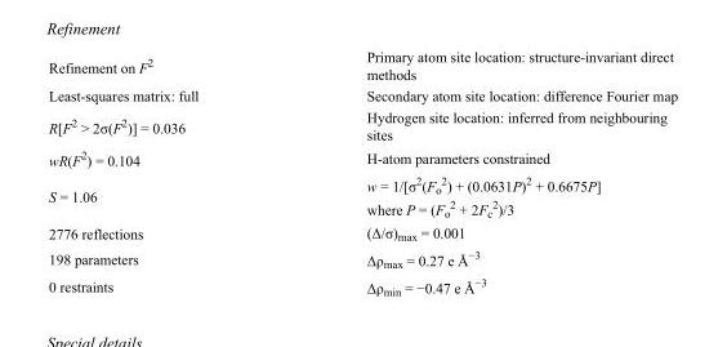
<table><tbody><tr><td>Refinement on F<sup>2</sup></td><td>Primary atom site location: structure-invariant direct methods</td></tr><tr><td>Least-squares matrix: full</td><td>Secondary atom site location: difference Fourier map</td></tr><tr><td>R[F<sup>2</sup> &gt; 2σ(F<sup>2</sup>)] = 0.036</td><td>Hydrogen site location: inferred from neighbouring sites</td></tr><tr><td>wR(F<sup>2</sup>) = 0.104</td><td>H-atom parameters constrained</td></tr><tr><td>S = 1.06</td><td>w = 1/[σ<sup>2</sup>(F<sub>o</sub> <sup>2</sup>) + (0.0631P)<sup>2</sup> + 0.6675P] where P = (F<sub>o</sub> <sup>2</sup> + 2F<sub>c</sub> <sup>2</sup>)/3</td></tr><tr><td>2776 reflections</td><td>(Δ/σ)<sub>max</sub> = 0.001</td></tr><tr><td>198 parameters</td><td>Δρ<sub>max</sub> = 0.27 e Å<sup>−3</sup></td></tr><tr><td>0 restraints</td><td>Δρ<sub>min</sub> = −0.47 e Å<sup>−3</sup></td></tr></tbody></table>